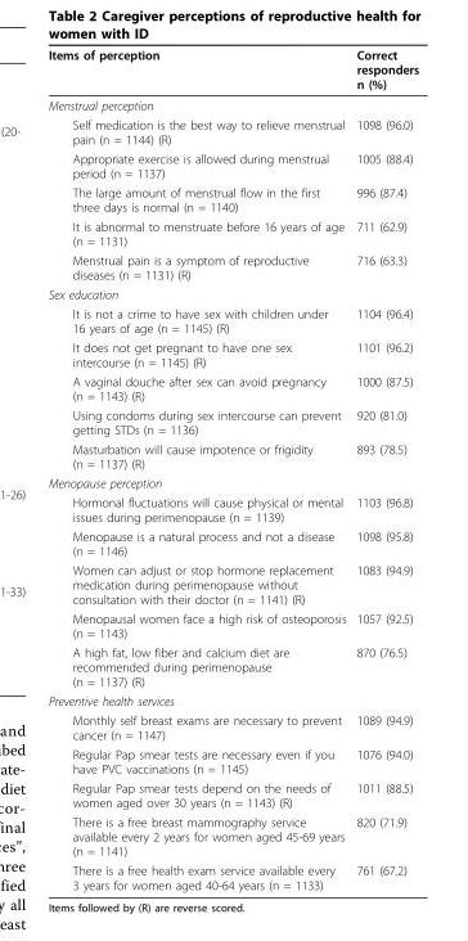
<table><thead><tr><td>Items of perception</td><td>Correct responders n (%)</td></tr></thead><tbody><tr><td colspan="2">Menstrual perception</td></tr><tr><td>Self medication is the best way to relieve menstrual pain (n = 1144) (R)</td><td>1098 (96.0)</td></tr><tr><td>Appropriate exercise is allowed during menstrual period (n = 1137)</td><td>1005 (88.4)</td></tr><tr><td>The large amount of menstrual flow in the first three days is normal (n = 1140)</td><td>996 (87.4)</td></tr><tr><td>It is abnormal to menstruate before 16 years of age (n = 1131)</td><td>711 (62.9)</td></tr><tr><td>Menstrual pain is a symptom of reproductive diseases (n = 1131) (R)</td><td>716 (63.3)</td></tr><tr><td colspan="2">Sex education</td></tr><tr><td>It is not a crime to have sex with children under 16 years of age (n = 1145) (R)</td><td>1104 (96.4)</td></tr><tr><td>It does not get pregnant to have one sex intercourse (n = 1145) (R)</td><td>1101 (96.2)</td></tr><tr><td>A vaginal douche after sex can avoid pregnancy (n = 1143) (R)</td><td>1000 (87.5)</td></tr><tr><td>Using condoms during sex intercourse can prevent getting STDs (n = 1136)</td><td>920 (81.0)</td></tr><tr><td>Masturbation will cause impotence or frigidity (n = 1137) (R)</td><td>893 (78.5)</td></tr><tr><td colspan="2">Menopause perception</td></tr><tr><td>Hormonal fluctuations will cause physical or mental issues during perimenopause (n = 1139)</td><td>1103 (96.8)</td></tr><tr><td>Menopause is a natural process and not a disease (n = 1146)</td><td>1098 (95.8)</td></tr><tr><td>Women can adjust or stop hormone replacement medication during perimenopause without consultation with their doctor (n = 1141) (R)</td><td>1083 (94.9)</td></tr><tr><td>Menopausal women face a high risk of osteoporosis (n = 1143)</td><td>1057 (92.5)</td></tr><tr><td>A high fat, low fiber and calcium diet are recommended during perimenopause (n = 1137) (R)</td><td>870 (76.5)</td></tr><tr><td colspan="2">Preventive health services</td></tr><tr><td>Monthly self breast exams are necessary to prevent cancer (n = 1147)</td><td>1089 (94.9)</td></tr><tr><td>Regular Pap smear tests are necessary even if you have PVC vaccinations (n = 1145)</td><td>1076 (94.0)</td></tr><tr><td>Regular Pap smear tests depend on the needs of women aged over 30 years (n = 1143) (R)</td><td>1011 (88.5)</td></tr><tr><td>There is a free breast mammography service available every 2 years for women aged 45-69 years (n = 1141)</td><td>820 (71.9)</td></tr><tr><td>There is a free health exam service available every 3 years for women aged 40-64 years (n = 1133)</td><td>761 (67.2)</td></tr></tbody></table>